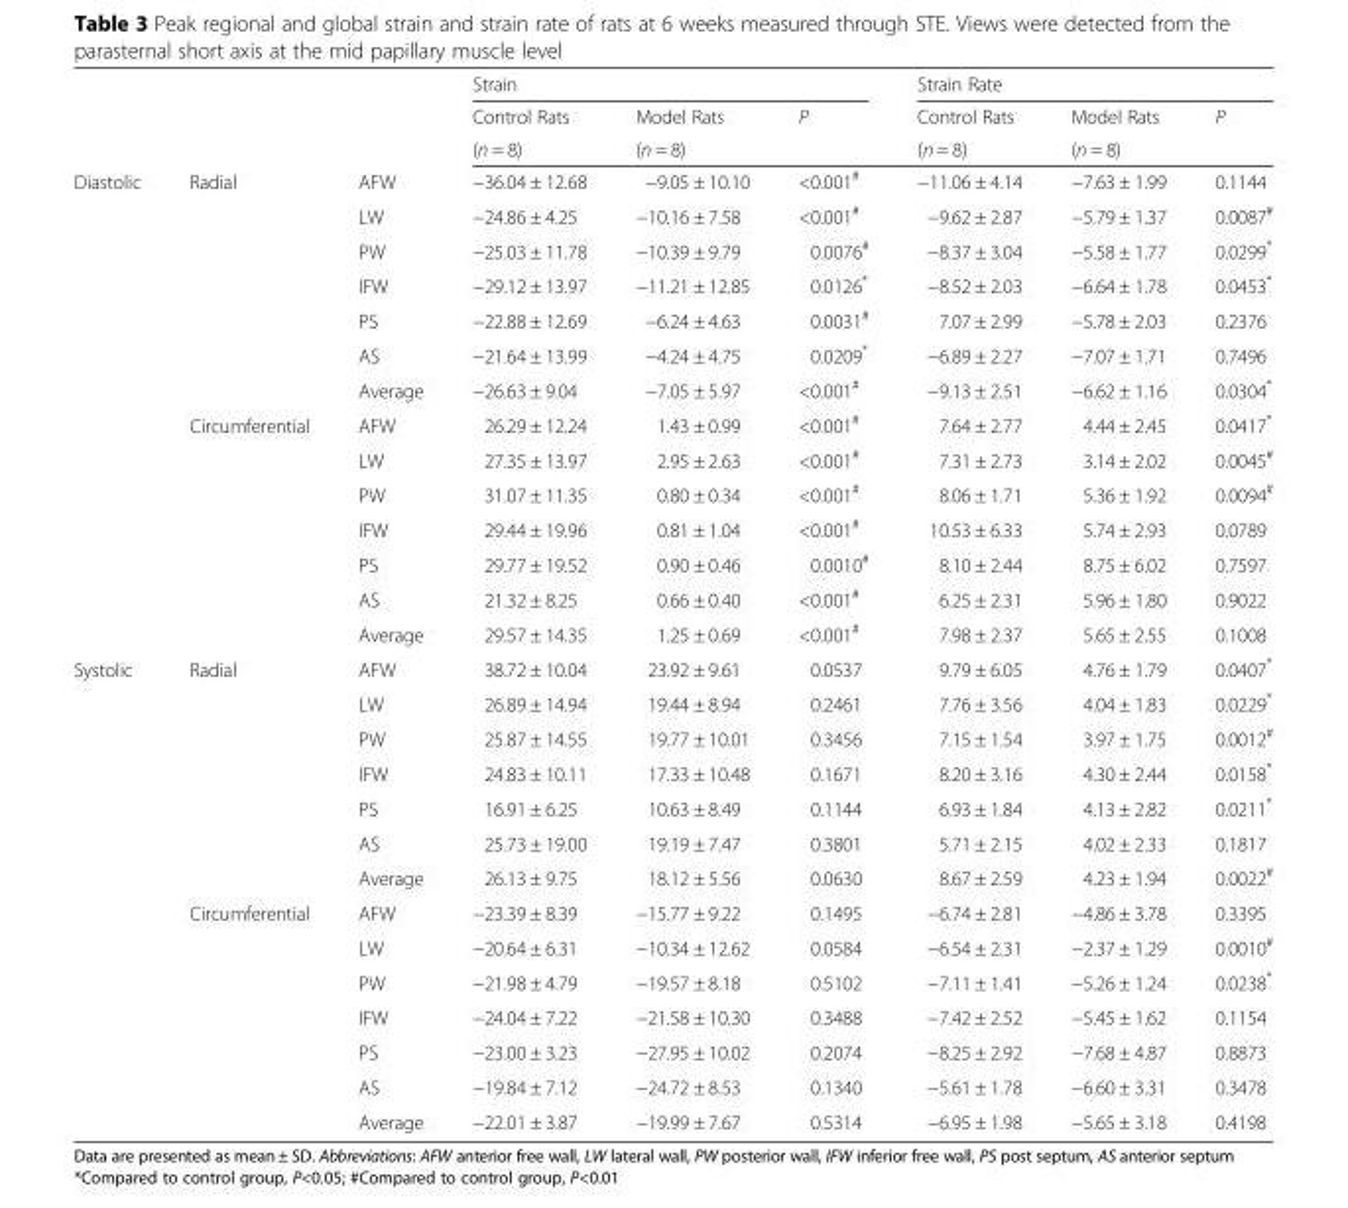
<table><thead><tr><td rowspan="3"></td><td rowspan="3"></td><td rowspan="3"></td><td colspan="3">Strain</td><td colspan="3">Strain Rate</td></tr><tr><td rowspan="2">Control Rats (n = 8)</td><td rowspan="2">Model Rats (n = 8)</td><td rowspan="2">P</td><td rowspan="2">Control Rats (n = 8)</td><td rowspan="2">Model Rats (n = 8)</td><td rowspan="2">P</td></tr><tr></tr></thead><tbody><tr><td rowspan="14">Diastolic</td><td rowspan="7">Radial</td><td>AFW</td><td>−36.04 ± 12.68</td><td>−9.05 ± 10.10</td><td>&lt;0.001<sup>#</sup></td><td>−11.06 ± 4.14</td><td>−7.63 ± 1.99</td><td>0.1144</td></tr><tr><td>LW</td><td>−24.86 ± 4.25</td><td>−10.16 ± 7.58</td><td>&lt;0.001<sup>#</sup></td><td>−9.62 ± 2.87</td><td>−5.79 ± 1.37</td><td>0.0087<sup>#</sup></td></tr><tr><td>PW</td><td>−25.03 ± 11.78</td><td>−10.39 ± 9.79</td><td>0.0076<sup>#</sup></td><td>−8.37 ± 3.04</td><td>−5.58 ± 1.77</td><td>0.0299*</td></tr><tr><td>IFW</td><td>−29.12 ± 13.97</td><td>−11.21 ± 12.85</td><td>0.0126*</td><td>−8.52 ± 2.03</td><td>−6.64 ± 1.78</td><td>0.0453*</td></tr><tr><td>PS</td><td>−22.88 ± 12.69</td><td>−6.24 ± 4.63</td><td>0.0031<sup>#</sup></td><td>7.07 ± 2.99</td><td>−5.78 ± 2.03</td><td>0.2376</td></tr><tr><td>AS</td><td>−21.64 ± 13.99</td><td>−4.24 ± 4.75</td><td>0.0209*</td><td>−6.89 ± 2.27</td><td>−7.07 ± 1.71</td><td>0.7496</td></tr><tr><td>Average</td><td>−26.63 ± 9.04</td><td>−7.05 ± 5.97</td><td>&lt;0.001<sup>#</sup></td><td>−9.13 ± 2.51</td><td>−6.62 ± 1.16</td><td>0.0304*</td></tr><tr><td rowspan="7">Circumferential</td><td>AFW</td><td>26.29 ± 12.24</td><td>1.43 ± 0.99</td><td>&lt;0.001<sup>#</sup></td><td>7.64 ± 2.77</td><td>4.44 ± 2.45</td><td>0.0417*</td></tr><tr><td>LW</td><td>27.35 ± 13.97</td><td>2.95 ± 2.63</td><td>&lt;0.001<sup>#</sup></td><td>7.31 ± 2.73</td><td>3.14 ± 2.02</td><td>0.0045<sup>#</sup></td></tr><tr><td>PW</td><td>31.07 ± 11.35</td><td>0.80 ± 0.34</td><td>&lt;0.001<sup>#</sup></td><td>8.06 ± 1.71</td><td>5.36 ± 1.92</td><td>0.0094<sup>#</sup></td></tr><tr><td>IFW</td><td>29.44 ± 19.96</td><td>0.81 ± 1.04</td><td>&lt;0.001<sup>#</sup></td><td>10.53 ± 6.33</td><td>5.74 ± 2.93</td><td>0.0789</td></tr><tr><td>PS</td><td>29.77 ± 19.52</td><td>0.90 ± 0.46</td><td>0.0010<sup>#</sup></td><td>8.10 ± 2.44</td><td>8.75 ± 6.02</td><td>0.7597</td></tr><tr><td>AS</td><td>21.32 ± 8.25</td><td>0.66 ± 0.40</td><td>&lt;0.001<sup>#</sup></td><td>6.25 ± 2.31</td><td>5.96 ± 1.80</td><td>0.9022</td></tr><tr><td>Average</td><td>29.57 ± 14.35</td><td>1.25 ± 0.69</td><td>&lt;0.001<sup>#</sup></td><td>7.98 ± 2.37</td><td>5.65 ± 2.55</td><td>0.1008</td></tr><tr><td rowspan="14">Systolic</td><td rowspan="7">Radial</td><td>AFW</td><td>38.72 ± 10.04</td><td>23.92 ± 9.61</td><td>0.0537</td><td>9.79 ± 6.05</td><td>4.76 ± 1.79</td><td>0.0407*</td></tr><tr><td>LW</td><td>26.89 ± 14.94</td><td>19.44 ± 8.94</td><td>0.2461</td><td>7.76 ± 3.56</td><td>4.04 ± 1.83</td><td>0.0229*</td></tr><tr><td>PW</td><td>25.87 ± 14.55</td><td>19.77 ± 10.01</td><td>0.3456</td><td>7.15 ± 1.54</td><td>3.97 ± 1.75</td><td>0.0012<sup>#</sup></td></tr><tr><td>IFW</td><td>24.83 ± 10.11</td><td>17.33 ± 10.48</td><td>0.1671</td><td>8.20 ± 3.16</td><td>4.30 ± 2.44</td><td>0.0158*</td></tr><tr><td>PS</td><td>16.91 ± 6.25</td><td>10.63 ± 8.49</td><td>0.1144</td><td>6.93 ± 1.84</td><td>4.13 ± 2.82</td><td>0.0211*</td></tr><tr><td>AS</td><td>25.73 ± 19.00</td><td>19.19 ± 7.47</td><td>0.3801</td><td>5.71 ± 2.15</td><td>4.02 ± 2.33</td><td>0.1817</td></tr><tr><td>Average</td><td>26.13 ± 9.75</td><td>18.12 ± 5.56</td><td>0.0630</td><td>8.67 ± 2.59</td><td>4.23 ± 1.94</td><td>0.0022<sup>#</sup></td></tr><tr><td rowspan="7">Circumferential</td><td>AFW</td><td>−23.39 ± 8.39</td><td>−15.77 ± 9.22</td><td>0.1495</td><td>−6.74 ± 2.81</td><td>−4.86 ± 3.78</td><td>0.3395</td></tr><tr><td>LW</td><td>−20.64 ± 6.31</td><td>−10.34 ± 12.62</td><td>0.0584</td><td>−6.54 ± 2.31</td><td>−2.37 ± 1.29</td><td>0.0010<sup>#</sup></td></tr><tr><td>PW</td><td>−21.98 ± 4.79</td><td>−19.57 ± 8.18</td><td>0.5102</td><td>−7.11 ± 1.41</td><td>−5.26 ± 1.24</td><td>0.0238*</td></tr><tr><td>IFW</td><td>−24.04 ± 7.22</td><td>−21.58 ± 10.30</td><td>0.3488</td><td>−7.42 ± 2.52</td><td>−5.45 ± 1.62</td><td>0.1154</td></tr><tr><td>PS</td><td>−23.00 ± 3.23</td><td>−27.95 ± 10.02</td><td>0.2074</td><td>−8.25 ± 2.92</td><td>−7.68 ± 4.87</td><td>0.8873</td></tr><tr><td>AS</td><td>−19.84 ± 7.12</td><td>−24.72 ± 8.53</td><td>0.1340</td><td>−5.61 ± 1.78</td><td>−6.60 ± 3.31</td><td>0.3478</td></tr><tr><td>Average</td><td>−22.01 ± 3.87</td><td>−19.99 ± 7.67</td><td>0.5314</td><td>−6.95 ± 1.98</td><td>−5.65 ± 3.18</td><td>0.4198</td></tr></tbody></table>